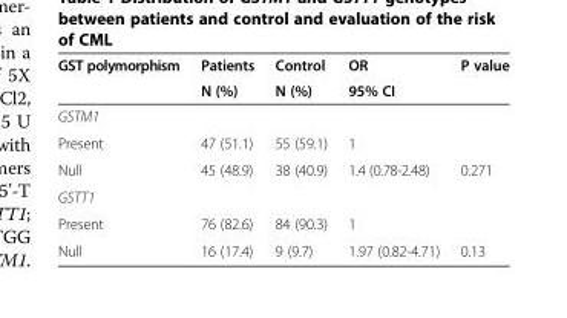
<table><thead><tr><td rowspan="2">GST polymorphism</td><td rowspan="2">Patients N (%)</td><td rowspan="2">Control N (%)</td><td rowspan="2">OR 95% CI</td><td rowspan="2">P value</td></tr><tr></tr></thead><tbody><tr><td colspan="5">GSTM1</td></tr><tr><td>Present</td><td>47 (51.1)</td><td>55 (59.1)</td><td>1</td><td></td></tr><tr><td>Null</td><td>45 (48.9)</td><td>38 (40.9)</td><td>1.4 (0.78-2.48)</td><td>0.271</td></tr><tr><td colspan="5">GSTT1</td></tr><tr><td>Present</td><td>76 (82.6)</td><td>84 (90.3)</td><td>1</td><td></td></tr><tr><td>Null</td><td>16 (17.4)</td><td>9 (9.7)</td><td>1.97 (0.82-4.71)</td><td>0.13</td></tr></tbody></table>